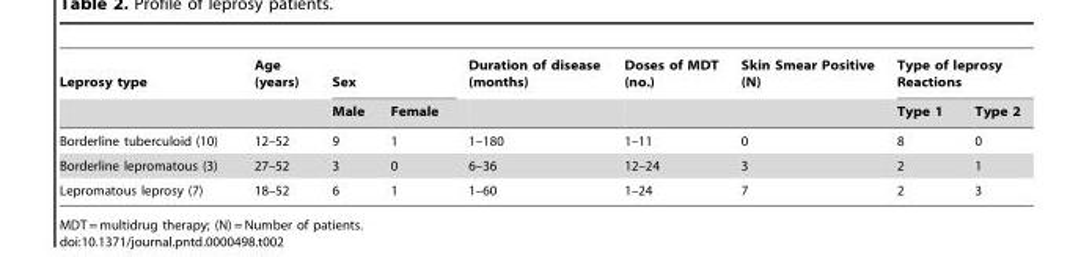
<table><thead><tr><td rowspan="2">Leprosy type</td><td rowspan="2">Age (years)</td><td colspan="2">Sex</td><td rowspan="2">Duration of disease (months)</td><td rowspan="2">Doses of MDT (no.)</td><td rowspan="2">Skin Smear Positive (N)</td><td colspan="2">Type of leprosy Reactions</td></tr><tr><td>Male</td><td>Female</td><td>Type 1</td><td>Type 2</td></tr></thead><tbody><tr><td>Borderline tuberculoid (10)</td><td>12–52</td><td>9</td><td>1</td><td>1–180</td><td>1–11</td><td>0</td><td>8</td><td>0</td></tr><tr><td>Borderline lepromatous (3)</td><td>27–52</td><td>3</td><td>0</td><td>6–36</td><td>12–24</td><td>3</td><td>2</td><td>1</td></tr><tr><td>Lepromatous leprosy (7)</td><td>18–52</td><td>6</td><td>1</td><td>1–60</td><td>1–24</td><td>7</td><td>2</td><td>3</td></tr></tbody></table>